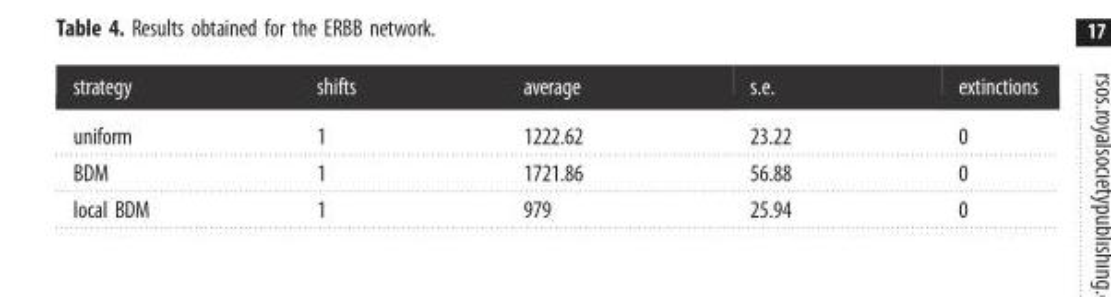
<table><thead><tr><td>strategy</td><td>shifts</td><td>average</td><td>s.e.</td><td>extinctions</td></tr></thead><tbody><tr><td>uniform</td><td>1</td><td>1222.62</td><td>23.22</td><td>0</td></tr><tr><td>BDM</td><td>1</td><td>1721.86</td><td>56.88</td><td>0</td></tr><tr><td>local BDM</td><td>1</td><td>979</td><td>25.94</td><td>0</td></tr></tbody></table>